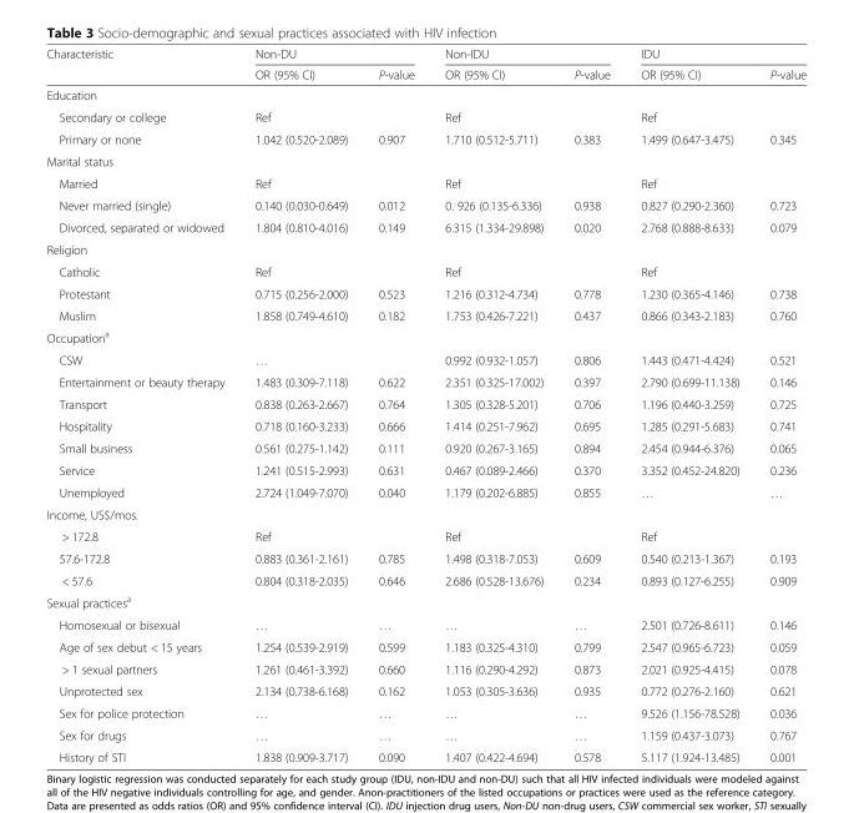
<table><thead><tr><td rowspan="2">Characteristic</td><td colspan="2">Non-DU</td><td colspan="2">Non-IDU</td><td colspan="2">IDU</td></tr><tr><td>OR (95% CI)</td><td>P-value</td><td>OR (95% CI)</td><td>P-value</td><td>OR (95% CI)</td><td>P-value</td></tr></thead><tbody><tr><td colspan="7">Education</td></tr><tr><td>Secondary or college</td><td>Ref</td><td></td><td>Ref</td><td></td><td>Ref</td><td></td></tr><tr><td>Primary or none</td><td>1.042 (0.520-2.089)</td><td>0.907</td><td>1.710 (0.512-5.711)</td><td>0.383</td><td>1.499 (0.647-3.475)</td><td>0.345</td></tr><tr><td colspan="7">Marital status</td></tr><tr><td>Married</td><td>Ref</td><td></td><td>Ref</td><td></td><td>Ref</td><td></td></tr><tr><td>Never married (single)</td><td>0.140 (0.030-0.649)</td><td>0.012</td><td>0. 926 (0.135-6.336)</td><td>0.938</td><td>0.827 (0.290-2.360)</td><td>0.723</td></tr><tr><td>Divorced, separated or widowed</td><td>1.804 (0.810-4.016)</td><td>0.149</td><td>6.315 (1.334-29.898)</td><td>0.020</td><td>2.768 (0.888-8.633)</td><td>0.079</td></tr><tr><td colspan="7">Religion</td></tr><tr><td>Catholic</td><td>Ref</td><td></td><td>Ref</td><td></td><td>Ref</td><td></td></tr><tr><td>Protestant</td><td>0.715 (0.256-2.000)</td><td>0.523</td><td>1.216 (0.312-4.734)</td><td>0.778</td><td>1.230 (0.365-4.146)</td><td>0.738</td></tr><tr><td>Muslim</td><td>1.858 (0.749-4.610)</td><td>0.182</td><td>1.753 (0.426-7.221)</td><td>0.437</td><td>0.866 (0.343-2.183)</td><td>0.760</td></tr><tr><td colspan="7">Occupation<sup>a</sup></td></tr><tr><td>CSW</td><td>…</td><td></td><td>0.992 (0.932-1.057)</td><td>0.806</td><td>1.443 (0.471-4.424)</td><td>0.521</td></tr><tr><td>Entertainment or beauty therapy</td><td>1.483 (0.309-7.118)</td><td>0.622</td><td>2.351 (0.325-17.002)</td><td>0.397</td><td>2.790 (0.699-11.138)</td><td>0.146</td></tr><tr><td>Transport</td><td>0.838 (0.263-2.667)</td><td>0.764</td><td>1.305 (0.328-5.201)</td><td>0.706</td><td>1.196 (0.440-3.259)</td><td>0.725</td></tr><tr><td>Hospitality</td><td>0.718 (0.160-3.233)</td><td>0.666</td><td>1.414 (0.251-7.962)</td><td>0.695</td><td>1.285 (0.291-5.683)</td><td>0.741</td></tr><tr><td>Small business</td><td>0.561 (0.275-1.142)</td><td>0.111</td><td>0.920 (0.267-3.165)</td><td>0.894</td><td>2.454 (0.944-6.376)</td><td>0.065</td></tr><tr><td>Service</td><td>1.241 (0.515-2.993)</td><td>0.631</td><td>0.467 (0.089-2.466)</td><td>0.370</td><td>3.352 (0.452-24.820)</td><td>0.236</td></tr><tr><td>Unemployed</td><td>2.724 (1.049-7.070)</td><td>0.040</td><td>1.179 (0.202-6.885)</td><td>0.855</td><td>…</td><td>…</td></tr><tr><td colspan="7">Income, US$/mos.</td></tr><tr><td>&gt; 172.8</td><td>Ref</td><td></td><td>Ref</td><td></td><td>Ref</td><td></td></tr><tr><td>57.6-172.8</td><td>0.883 (0.361-2.161)</td><td>0.785</td><td>1.498 (0.318-7.053)</td><td>0.609</td><td>0.540 (0.213-1.367)</td><td>0.193</td></tr><tr><td>&lt; 57.6</td><td>0.804 (0.318-2.035)</td><td>0.646</td><td>2.686 (0.528-13.676)</td><td>0.234</td><td>0.893 (0.127-6.255)</td><td>0.909</td></tr><tr><td colspan="7">Sexual practices<sup>a</sup></td></tr><tr><td>Homosexual or bisexual</td><td>…</td><td>…</td><td>…</td><td>…</td><td>2.501 (0.726-8.611)</td><td>0.146</td></tr><tr><td>Age of sex debut &lt; 15 years</td><td>1.254 (0.539-2.919)</td><td>0.599</td><td>1.183 (0.325-4.310)</td><td>0.799</td><td>2.547 (0.965-6.723)</td><td>0.059</td></tr><tr><td>&gt; 1 sexual partners</td><td>1.261 (0.461-3.392)</td><td>0.660</td><td>1.116 (0.290-4.292)</td><td>0.873</td><td>2.021 (0.925-4.415)</td><td>0.078</td></tr><tr><td>Unprotected sex</td><td>2.134 (0.738-6.168)</td><td>0.162</td><td>1.053 (0.305-3.636)</td><td>0.935</td><td>0.772 (0.276-2.160)</td><td>0.621</td></tr><tr><td>Sex for police protection</td><td>…</td><td>…</td><td>…</td><td>…</td><td>9.526 (1.156-78.528)</td><td>0.036</td></tr><tr><td>Sex for drugs</td><td>…</td><td>…</td><td>…</td><td>…</td><td>1.159 (0.437-3.073)</td><td>0.767</td></tr><tr><td>History of STI</td><td>1.838 (0.909-3.717)</td><td>0.090</td><td>1.407 (0.422-4.694)</td><td>0.578</td><td>5.117 (1.924-13.485)</td><td>0.001</td></tr></tbody></table>